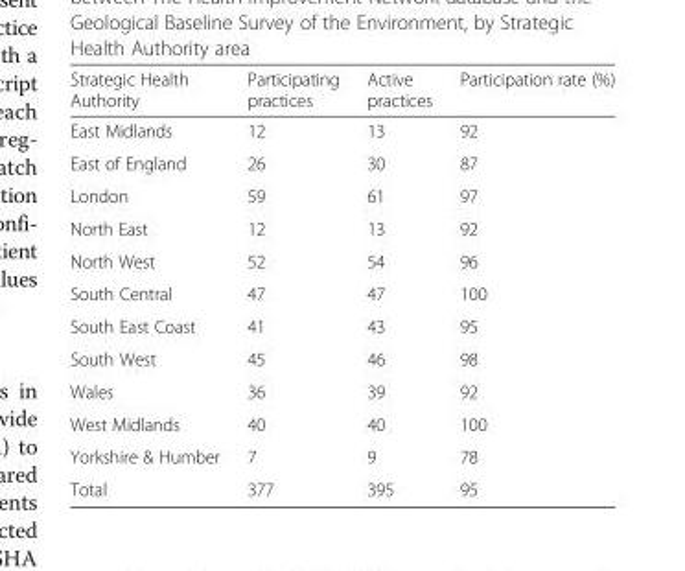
<table><thead><tr><td>Strategic Health Authority</td><td>Participating practices</td><td>Active practices</td><td>Participation rate (%)</td></tr></thead><tbody><tr><td>East Midlands</td><td>12</td><td>13</td><td>92</td></tr><tr><td>East of England</td><td>26</td><td>30</td><td>87</td></tr><tr><td>London</td><td>59</td><td>61</td><td>97</td></tr><tr><td>North East</td><td>12</td><td>13</td><td>92</td></tr><tr><td>North West</td><td>52</td><td>54</td><td>96</td></tr><tr><td>South Central</td><td>47</td><td>47</td><td>100</td></tr><tr><td>South East Coast</td><td>41</td><td>43</td><td>95</td></tr><tr><td>South West</td><td>45</td><td>46</td><td>98</td></tr><tr><td>Wales</td><td>36</td><td>39</td><td>92</td></tr><tr><td>West Midlands</td><td>40</td><td>40</td><td>100</td></tr><tr><td>Yorkshire &amp; Humber</td><td>7</td><td>9</td><td>78</td></tr><tr><td>Total</td><td>377</td><td>395</td><td>95</td></tr></tbody></table>